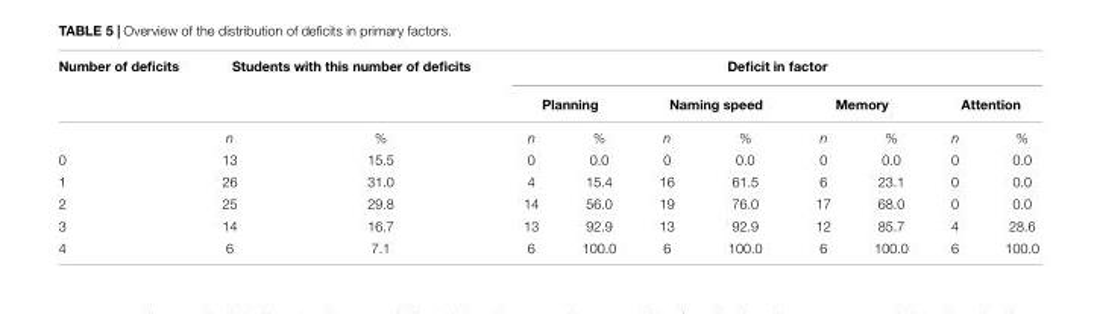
<table><thead><tr><td rowspan="3">Number of deficits</td><td colspan="2">Students with this number of deficits</td><td colspan="8">Deficit in factor</td></tr><tr><td rowspan="2">n</td><td rowspan="2">%</td><td colspan="2">Planning</td><td colspan="2">Naming speed</td><td colspan="2">Memory</td><td colspan="2">Attention</td></tr><tr><td>n</td><td>%</td><td>n</td><td>%</td><td>n</td><td>%</td><td>n</td><td>%</td></tr></thead><tbody><tr><td>0</td><td>13</td><td>15.5</td><td>0</td><td>0.0</td><td>0</td><td>0.0</td><td>0</td><td>0.0</td><td>0</td><td>0.0</td></tr><tr><td>1</td><td>26</td><td>31.0</td><td>4</td><td>15.4</td><td>16</td><td>61.5</td><td>6</td><td>23.1</td><td>0</td><td>0.0</td></tr><tr><td>2</td><td>25</td><td>29.8</td><td>14</td><td>56.0</td><td>19</td><td>76.0</td><td>17</td><td>68.0</td><td>0</td><td>0.0</td></tr><tr><td>3</td><td>14</td><td>16.7</td><td>13</td><td>92.9</td><td>13</td><td>92.9</td><td>12</td><td>85.7</td><td>4</td><td>28.6</td></tr><tr><td>4</td><td>6</td><td>7.1</td><td>6</td><td>100.0</td><td>6</td><td>100.0</td><td>6</td><td>100.0</td><td>6</td><td>100.0</td></tr></tbody></table>